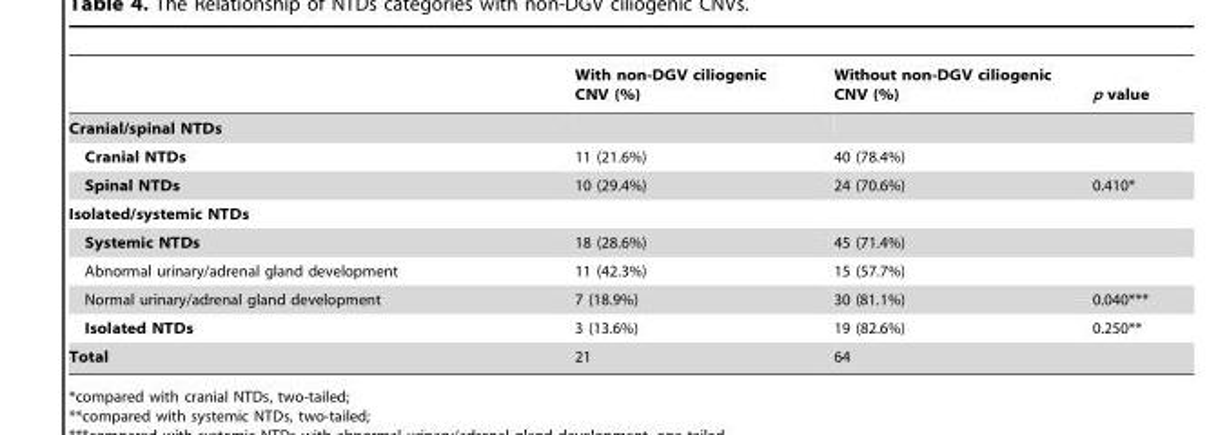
<table><thead><tr><td></td><td>With non-DGV ciliogenic CNV (%)</td><td>Without non-DGV ciliogenic CNV (%)</td><td>p value</td></tr></thead><tbody><tr><td colspan="4">Cranial/spinal NTDs</td></tr><tr><td>Cranial NTDs</td><td>11 (21.6%)</td><td>40 (78.4%)</td><td></td></tr><tr><td>Spinal NTDs</td><td>10 (29.4%)</td><td>24 (70.6%)</td><td>0.410*</td></tr><tr><td colspan="4">Isolated/systemic NTDs</td></tr><tr><td>Systemic NTDs</td><td>18 (28.6%)</td><td>45 (71.4%)</td><td></td></tr><tr><td>Abnormal urinary/adrenal gland development</td><td>11 (42.3%)</td><td>15 (57.7%)</td><td></td></tr><tr><td>Normal urinary/adrenal gland development</td><td>7 (18.9%)</td><td>30 (81.1%)</td><td>0.040***</td></tr><tr><td>Isolated NTDs</td><td>3 (13.6%)</td><td>19 (82.6%)</td><td>0.250**</td></tr><tr><td>Total</td><td>21</td><td>64</td><td></td></tr></tbody></table>